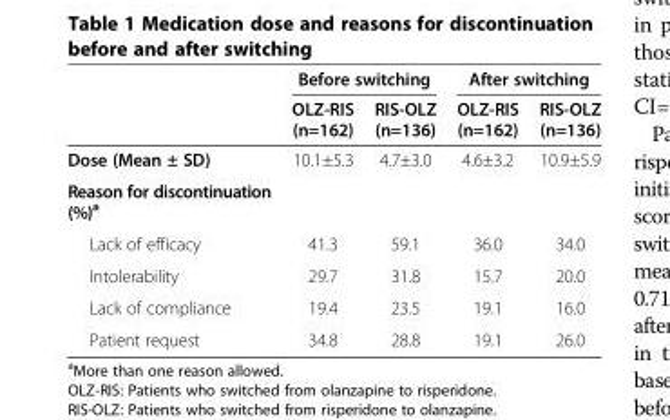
<table><thead><tr><td rowspan="2"></td><td colspan="2">Before switching</td><td colspan="2">After switching</td></tr><tr><td>OLZ-RIS (n=162)</td><td>RIS-OLZ (n=136)</td><td>OLZ-RIS (n=162)</td><td>RIS-OLZ (n=136)</td></tr></thead><tbody><tr><td>Dose (Mean ± SD)</td><td>10.1±5.3</td><td>4.7±3.0</td><td>4.6±3.2</td><td>10.9±5.9</td></tr><tr><td colspan="5">Reason for discontinuation (%)<sup>a</sup></td></tr><tr><td>Lack of efficacy</td><td>41.3</td><td>59.1</td><td>36.0</td><td>34.0</td></tr><tr><td>Intolerability</td><td>29.7</td><td>31.8</td><td>15.7</td><td>20.0</td></tr><tr><td>Lack of compliance</td><td>19.4</td><td>23.5</td><td>19.1</td><td>16.0</td></tr><tr><td>Patient request</td><td>34.8</td><td>28.8</td><td>19.1</td><td>26.0</td></tr></tbody></table>